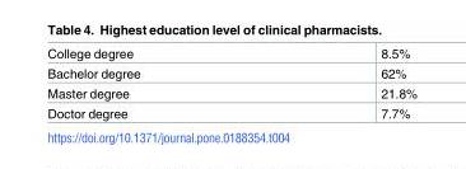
<table><tbody><tr><td>College degree</td><td>8.5%</td></tr><tr><td>Bachelor degree</td><td>62%</td></tr><tr><td>Master degree</td><td>21.8%</td></tr><tr><td>Doctor degree</td><td>7.7%</td></tr></tbody></table>